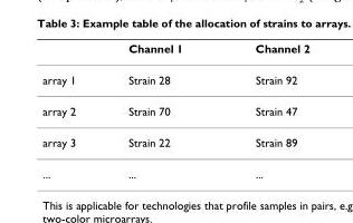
<table><thead><tr><td></td><td>Channel 1</td><td>Channel 2</td></tr></thead><tbody><tr><td>array 1</td><td>Strain 28</td><td>Strain 92</td></tr><tr><td>array 2</td><td>Strain 70</td><td>Strain 47</td></tr><tr><td>array 3</td><td>Strain 22</td><td>Strain 89</td></tr><tr><td>...</td><td>...</td><td>...</td></tr></tbody></table>